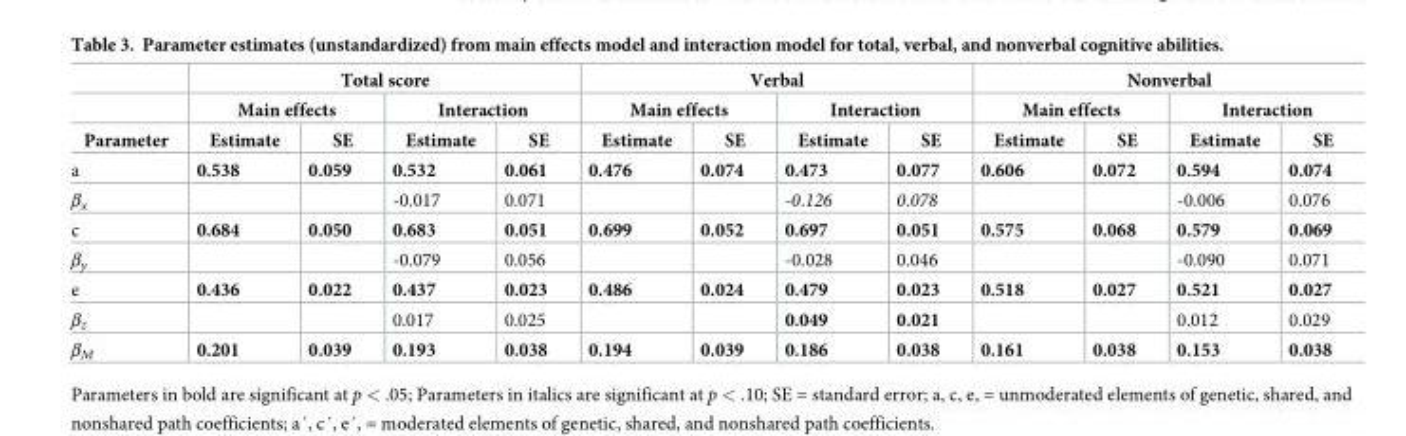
<table><thead><tr><td rowspan="3">Parameter</td><td colspan="4">Total score</td><td colspan="4">Verbal</td><td colspan="4">Nonverbal</td></tr><tr><td colspan="2">Main effects</td><td colspan="2">Interaction</td><td colspan="2">Main effects</td><td colspan="2">Interaction</td><td colspan="2">Main effects</td><td colspan="2">Interaction</td></tr><tr><td>Estimate</td><td>SE</td><td>Estimate</td><td>SE</td><td>Estimate</td><td>SE</td><td>Estimate</td><td>SE</td><td>Estimate</td><td>SE</td><td>Estimate</td><td>SE</td></tr></thead><tbody><tr><td>a</td><td>0.538</td><td>0.059</td><td>0.532</td><td>0.061</td><td>0.476</td><td>0.074</td><td>0.473</td><td>0.077</td><td>0.606</td><td>0.072</td><td>0.594</td><td>0.074</td></tr><tr><td>β<sub>x</sub></td><td></td><td></td><td>-0.017</td><td>0.071</td><td></td><td></td><td>-0.126</td><td>0.078</td><td></td><td></td><td>-0.006</td><td>0.076</td></tr><tr><td>c</td><td>0.684</td><td>0.050</td><td>0.683</td><td>0.051</td><td>0.699</td><td>0.052</td><td>0.697</td><td>0.051</td><td>0.575</td><td>0.068</td><td>0.579</td><td>0.069</td></tr><tr><td>β<sub>y</sub></td><td></td><td></td><td>-0.079</td><td>0.056</td><td></td><td></td><td>-0.028</td><td>0.046</td><td></td><td></td><td>-0.090</td><td>0.071</td></tr><tr><td>e</td><td>0.436</td><td>0.022</td><td>0.437</td><td>0.023</td><td>0.486</td><td>0.024</td><td>0.479</td><td>0.023</td><td>0.518</td><td>0.027</td><td>0.521</td><td>0.027</td></tr><tr><td>β<sub>z</sub></td><td></td><td></td><td>0.017</td><td>0.025</td><td></td><td></td><td>0.049</td><td>0.021</td><td></td><td></td><td>0.012</td><td>0.029</td></tr><tr><td>β<sub>M</sub></td><td>0.201</td><td>0.039</td><td>0.193</td><td>0.038</td><td>0.194</td><td>0.039</td><td>0.186</td><td>0.038</td><td>0.161</td><td>0.038</td><td>0.153</td><td>0.038</td></tr></tbody></table>